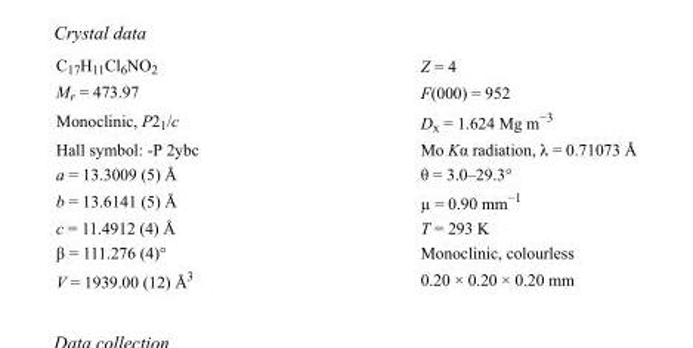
<table><tbody><tr><td>C<sub>17</sub>H<sub>11</sub>Cl<sub>6</sub>NO<sub>2</sub></td><td>Z = 4</td></tr><tr><td>M<sub>r</sub> = 473.97</td><td>F(000) = 952</td></tr><tr><td>Monoclinic, P2<sub>1</sub>/c</td><td>D<sub>x</sub> = 1.624 Mg m<sup>−3</sup></td></tr><tr><td>Hall symbol: -P 2ybc</td><td>Mo Kα radiation, λ = 0.71073 Å</td></tr><tr><td>a = 13.3009 (5) Å</td><td>θ = 3.0–29.3°</td></tr><tr><td>b = 13.6141 (5) Å</td><td>µ = 0.90 mm<sup>−1</sup></td></tr><tr><td>c = 11.4912 (4) Å</td><td>T = 293 K</td></tr><tr><td>β = 111.276 (4)°</td><td>Monoclinic, colourless</td></tr><tr><td>V = 1939.00 (12) Å<sup>3</sup></td><td>0.20 × 0.20 × 0.20 mm</td></tr></tbody></table>